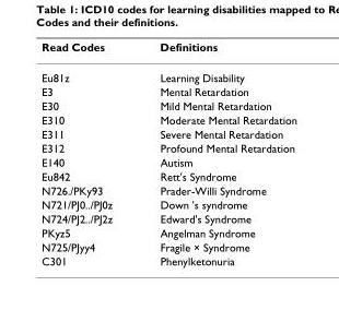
<table><thead><tr><td>Read Codes</td><td>Definitions</td></tr></thead><tbody><tr><td>Eu81z</td><td>Learning Disability</td></tr><tr><td>E3</td><td>Mental Retardation</td></tr><tr><td>E30</td><td>Mild Mental Retardation</td></tr><tr><td>E310</td><td>Moderate Mental Retardation</td></tr><tr><td>E311</td><td>Severe Mental Retardation</td></tr><tr><td>E312</td><td>Profound Mental Retardation</td></tr><tr><td>E140</td><td>Autism</td></tr><tr><td>Eu842</td><td>Rett&#x27;s Syndrome</td></tr><tr><td>N726./PKy93</td><td>Prader-Willi Syndrome</td></tr><tr><td>N721/PJ0../PJ0z</td><td>Down &#x27;s syndrome</td></tr><tr><td>N724/PJ2../PJ2z</td><td>Edward&#x27;s Syndrome</td></tr><tr><td>PKyz5</td><td>Angelman Syndrome</td></tr><tr><td>N725/PJyy4</td><td>Fragile × Syndrome</td></tr><tr><td>C301</td><td>Phenylketonuria</td></tr></tbody></table>